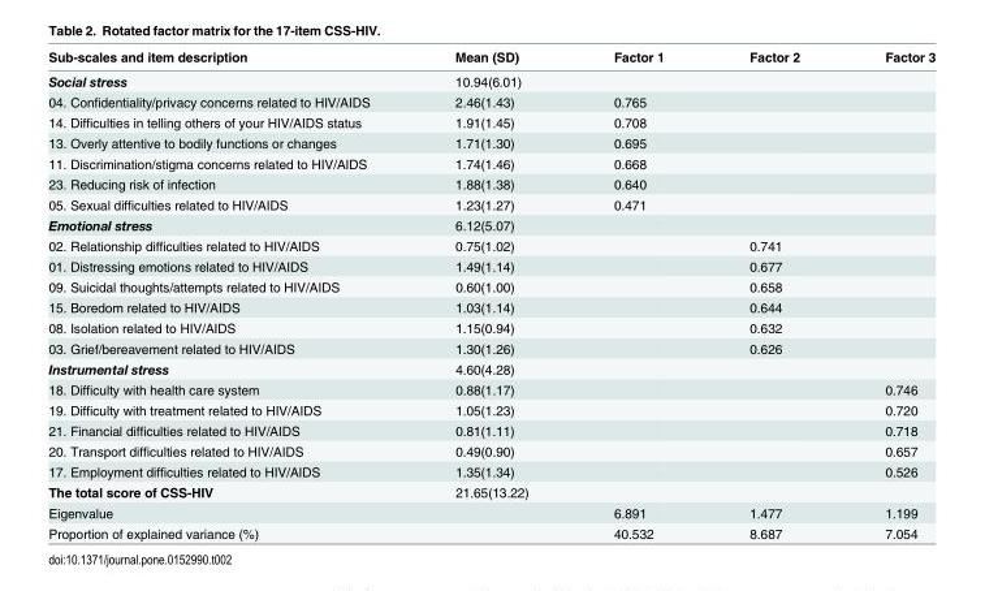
<table><thead><tr><td>Sub-scales and item description</td><td>Mean (SD)</td><td>Factor 1</td><td>Factor 2</td><td>Factor 3</td></tr></thead><tbody><tr><td>Social stress</td><td>10.94(6.01)</td><td></td><td></td><td></td></tr><tr><td>04. Confidentiality/privacy concerns related to HIV/AIDS</td><td>2.46(1.43)</td><td>0.765</td><td></td><td></td></tr><tr><td>14. Difficulties in telling others of your HIV/AIDS status</td><td>1.91(1.45)</td><td>0.708</td><td></td><td></td></tr><tr><td>13. Overly attentive to bodily functions or changes</td><td>1.71(1.30)</td><td>0.695</td><td></td><td></td></tr><tr><td>11. Discrimination/stigma concerns related to HIV/AIDS</td><td>1.74(1.46)</td><td>0.668</td><td></td><td></td></tr><tr><td>23. Reducing risk of infection</td><td>1.88(1.38)</td><td>0.640</td><td></td><td></td></tr><tr><td>05. Sexual difficulties related to HIV/AIDS</td><td>1.23(1.27)</td><td>0.471</td><td></td><td></td></tr><tr><td>Emotional stress</td><td>6.12(5.07)</td><td></td><td></td><td></td></tr><tr><td>02. Relationship difficulties related to HIV/AIDS</td><td>0.75(1.02)</td><td></td><td>0.741</td><td></td></tr><tr><td>01. Distressing emotions related to HIV/AIDS</td><td>1.49(1.14)</td><td></td><td>0.677</td><td></td></tr><tr><td>09. Suicidal thoughts/attempts related to HIV/AIDS</td><td>0.60(1.00)</td><td></td><td>0.658</td><td></td></tr><tr><td>15. Boredom related to HIV/AIDS</td><td>1.03(1.14)</td><td></td><td>0.644</td><td></td></tr><tr><td>08. Isolation related to HIV/AIDS</td><td>1.15(0.94)</td><td></td><td>0.632</td><td></td></tr><tr><td>03. Grief/bereavement related to HIV/AIDS</td><td>1.30(1.26)</td><td></td><td>0.626</td><td></td></tr><tr><td>Instrumental stress</td><td>4.60(4.28)</td><td></td><td></td><td></td></tr><tr><td>18. Difficulty with health care system</td><td>0.88(1.17)</td><td></td><td></td><td>0.746</td></tr><tr><td>19. Difficulty with treatment related to HIV/AIDS</td><td>1.05(1.23)</td><td></td><td></td><td>0.720</td></tr><tr><td>21. Financial difficulties related to HIV/AIDS</td><td>0.81(1.11)</td><td></td><td></td><td>0.718</td></tr><tr><td>20. Transport difficulties related to HIV/AIDS</td><td>0.49(0.90)</td><td></td><td></td><td>0.657</td></tr><tr><td>17. Employment difficulties related to HIV/AIDS</td><td>1.35(1.34)</td><td></td><td></td><td>0.526</td></tr><tr><td>The total score of CSS-HIV</td><td>21.65(13.22)</td><td></td><td></td><td></td></tr><tr><td>Eigenvalue</td><td></td><td>6.891</td><td>1.477</td><td>1.199</td></tr><tr><td>Proportion of explained variance (%)</td><td></td><td>40.532</td><td>8.687</td><td>7.054</td></tr></tbody></table>